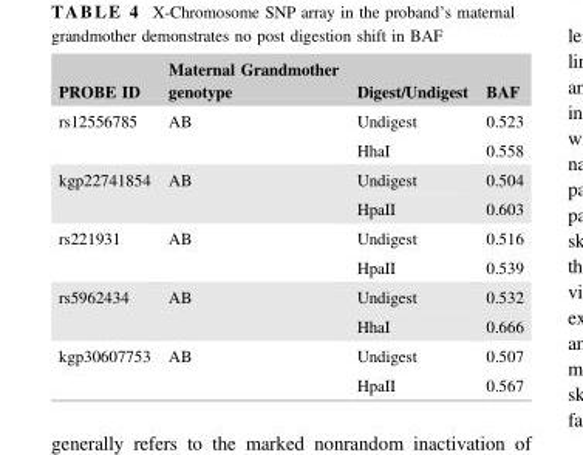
<table><thead><tr><td>PROBE ID</td><td>Maternal Grandmother genotype</td><td>Digest/Undigest</td><td>BAF</td></tr></thead><tbody><tr><td rowspan="2">rs12556785</td><td rowspan="2">AB</td><td>Undigest</td><td>0.523</td></tr><tr><td>HhaI</td><td>0.558</td></tr><tr><td rowspan="2">kgp22741854</td><td rowspan="2">AB</td><td>Undigest</td><td>0.504</td></tr><tr><td>HpaII</td><td>0.603</td></tr><tr><td rowspan="2">rs221931</td><td rowspan="2">AB</td><td>Undigest</td><td>0.516</td></tr><tr><td>HpaII</td><td>0.539</td></tr><tr><td rowspan="2">rs5962434</td><td rowspan="2">AB</td><td>Undigest</td><td>0.532</td></tr><tr><td>HhaI</td><td>0.666</td></tr><tr><td rowspan="2">kgp30607753</td><td rowspan="2">AB</td><td>Undigest</td><td>0.507</td></tr><tr><td>HpaII</td><td>0.567</td></tr></tbody></table>